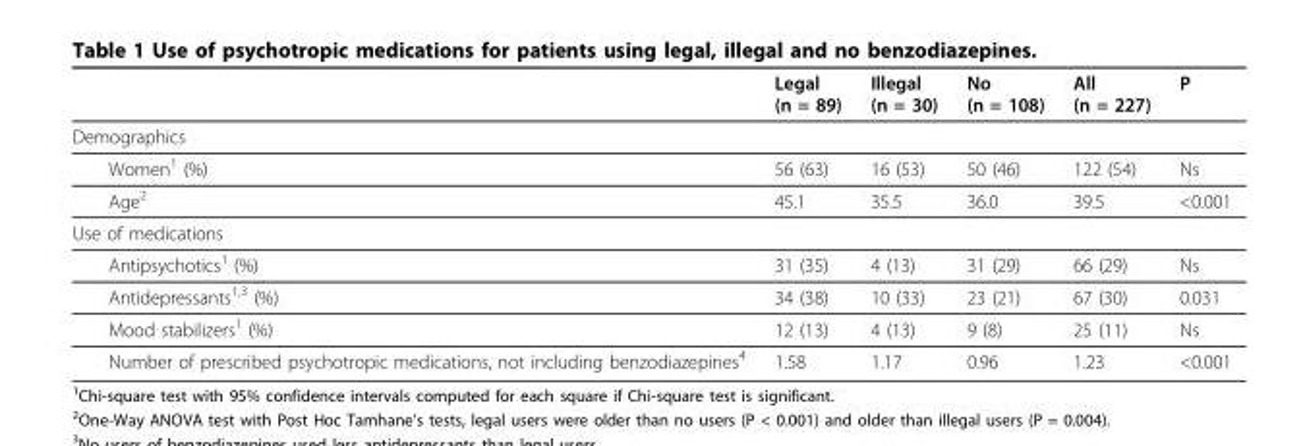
<table><thead><tr><td></td><td>Legal (n = 89)</td><td>Illegal (n = 30)</td><td>No (n = 108)</td><td>All (n = 227)</td><td>P</td></tr></thead><tbody><tr><td colspan="6">Demographics</td></tr><tr><td>Women<sup>1</sup> (%)</td><td>56 (63)</td><td>16 (53)</td><td>50 (46)</td><td>122 (54)</td><td>Ns</td></tr><tr><td>Age<sup>2</sup></td><td>45.1</td><td>35.5</td><td>36.0</td><td>39.5</td><td>&lt;0.001</td></tr><tr><td colspan="6">Use of medications</td></tr><tr><td>Antipsychotics<sup>1</sup> (%)</td><td>31 (35)</td><td>4 (13)</td><td>31 (29)</td><td>66 (29)</td><td>Ns</td></tr><tr><td>Antidepressants<sup>1,3</sup> (%)</td><td>34 (38)</td><td>10 (33)</td><td>23 (21)</td><td>67 (30)</td><td>0.031</td></tr><tr><td>Mood stabilizers<sup>1</sup> (%)</td><td>12 (13)</td><td>4 (13)</td><td>9 (8)</td><td>25 (11)</td><td>Ns</td></tr><tr><td>Number of prescribed psychotropic medications, not including benzodiazepines<sup>4</sup></td><td>1.58</td><td>1.17</td><td>0.96</td><td>1.23</td><td>&lt;0.001</td></tr></tbody></table>